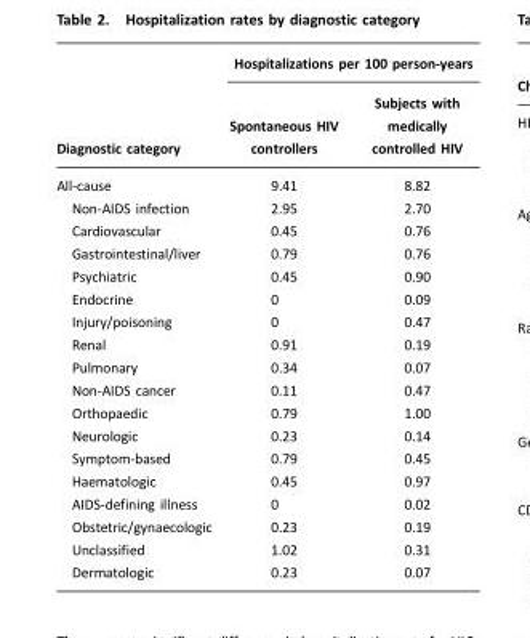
<table><thead><tr><td rowspan="2">Diagnostic category</td><td colspan="2">Hospitalizations per 100 person-years</td></tr><tr><td>Spontaneous HIV controllers</td><td>Subjects with medically controlled HIV</td></tr></thead><tbody><tr><td>All-cause</td><td>9.41</td><td>8.82</td></tr><tr><td>Non-AIDS infection</td><td>2.95</td><td>2.70</td></tr><tr><td>Cardiovascular</td><td>0.45</td><td>0.76</td></tr><tr><td>Gastrointestinal/liver</td><td>0.79</td><td>0.76</td></tr><tr><td>Psychiatric</td><td>0.45</td><td>0.90</td></tr><tr><td>Endocrine</td><td>0</td><td>0.09</td></tr><tr><td>Injury/poisoning</td><td>0</td><td>0.47</td></tr><tr><td>Renal</td><td>0.91</td><td>0.19</td></tr><tr><td>Pulmonary</td><td>0.34</td><td>0.07</td></tr><tr><td>Non-AIDS cancer</td><td>0.11</td><td>0.47</td></tr><tr><td>Orthopaedic</td><td>0.79</td><td>1.00</td></tr><tr><td>Neurologic</td><td>0.23</td><td>0.14</td></tr><tr><td>Symptom-based</td><td>0.79</td><td>0.45</td></tr><tr><td>Haematologic</td><td>0.45</td><td>0.97</td></tr><tr><td>AIDS-defining illness</td><td>0</td><td>0.02</td></tr><tr><td>Obstetric/gynaecologic</td><td>0.23</td><td>0.19</td></tr><tr><td>Unclassified</td><td>1.02</td><td>0.31</td></tr><tr><td>Dermatologic</td><td>0.23</td><td>0.07</td></tr></tbody></table>